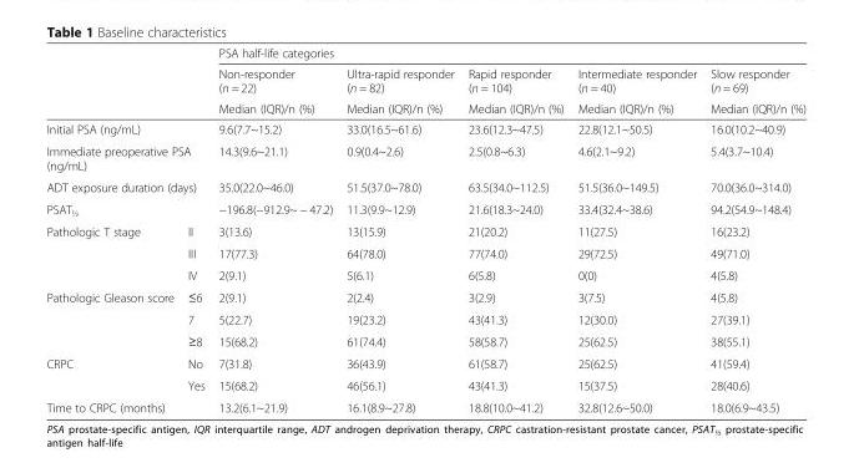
<table><thead><tr><td rowspan="3"></td><td rowspan="3"></td><td colspan="5">PSA half-life categories</td></tr><tr><td rowspan="2">Non-responder (n = 22) Median (IQR)/n (%)</td><td rowspan="2">Ultra-rapid responder (n = 82) Median (IQR)/n (%)</td><td rowspan="2">Rapid responder (n = 104) Median (IQR)/n (%)</td><td rowspan="2">Intermediate responder (n = 40) Median (IQR)/n (%)</td><td rowspan="2">Slow responder (n = 69) Median (IQR)/n (%)</td></tr><tr></tr></thead><tbody><tr><td colspan="2">Initial PSA (ng/mL)</td><td>9.6(7.7~15.2)</td><td>33.0(16.5~61.6)</td><td>23.6(12.3~47.5)</td><td>22.8(12.1~50.5)</td><td>16.0(10.2~40.9)</td></tr><tr><td colspan="2">Immediate preoperative PSA (ng/mL)</td><td>14.3(9.6~21.1)</td><td>0.9(0.4~2.6)</td><td>2.5(0.8~6.3)</td><td>4.6(2.1~9.2)</td><td>5.4(3.7~10.4)</td></tr><tr><td colspan="2">ADT exposure duration (days)</td><td>35.0(22.0~46.0)</td><td>51.5(37.0~78.0)</td><td>63.5(34.0~112.5)</td><td>51.5(36.0~149.5)</td><td>70.0(36.0~314.0)</td></tr><tr><td colspan="2">PSAT<sub>½</sub></td><td>−196.8(−912.9~ − 47.2)</td><td>11.3(9.9~12.9)</td><td>21.6(18.3~24.0)</td><td>33.4(32.4~38.6)</td><td>94.2(54.9~148.4)</td></tr><tr><td rowspan="3">Pathologic T stage</td><td>II</td><td>3(13.6)</td><td>13(15.9)</td><td>21(20.2)</td><td>11(27.5)</td><td>16(23.2)</td></tr><tr><td>III</td><td>17(77.3)</td><td>64(78.0)</td><td>77(74.0)</td><td>29(72.5)</td><td>49(71.0)</td></tr><tr><td>IV</td><td>2(9.1)</td><td>5(6.1)</td><td>6(5.8)</td><td>0(0)</td><td>4(5.8)</td></tr><tr><td rowspan="3">Pathologic Gleason score</td><td>≤6</td><td>2(9.1)</td><td>2(2.4)</td><td>3(2.9)</td><td>3(7.5)</td><td>4(5.8)</td></tr><tr><td>7</td><td>5(22.7)</td><td>19(23.2)</td><td>43(41.3)</td><td>12(30.0)</td><td>27(39.1)</td></tr><tr><td>≥8</td><td>15(68.2)</td><td>61(74.4)</td><td>58(58.7)</td><td>25(62.5)</td><td>38(55.1)</td></tr><tr><td rowspan="2">CRPC</td><td>No</td><td>7(31.8)</td><td>36(43.9)</td><td>61(58.7)</td><td>25(62.5)</td><td>41(59.4)</td></tr><tr><td>Yes</td><td>15(68.2)</td><td>46(56.1)</td><td>43(41.3)</td><td>15(37.5)</td><td>28(40.6)</td></tr><tr><td colspan="2">Time to CRPC (months)</td><td>13.2(6.1~21.9)</td><td>16.1(8.9~27.8)</td><td>18.8(10.0~41.2)</td><td>32.8(12.6~50.0)</td><td>18.0(6.9~43.5)</td></tr></tbody></table>